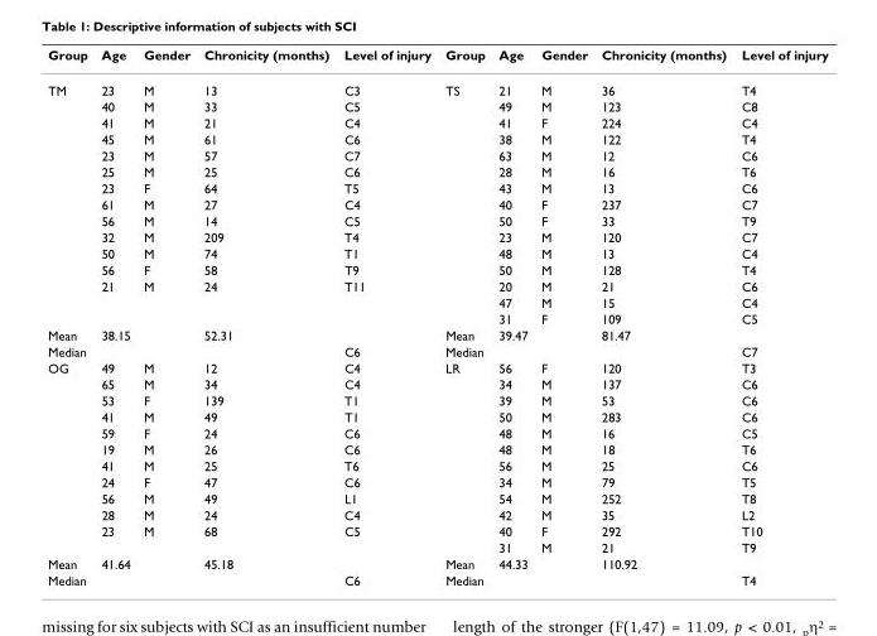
<table><thead><tr><td>Group</td><td>Age</td><td>Gender</td><td>Chronicity (months)</td><td>Level of injury</td><td>Group</td><td>Age</td><td>Gender</td><td>Chronicity (months)</td><td>Level of injury</td></tr></thead><tbody><tr><td rowspan="15">TM</td><td>23</td><td>M</td><td>13</td><td>C3</td><td>TS</td><td>21</td><td>M</td><td>36</td><td>T4</td></tr><tr><td>40</td><td>M</td><td>33</td><td>C5</td><td></td><td>49</td><td>M</td><td>123</td><td>C8</td></tr><tr><td>41</td><td>M</td><td>21</td><td>C4</td><td></td><td>41</td><td>F</td><td>224</td><td>C4</td></tr><tr><td>45</td><td>M</td><td>61</td><td>C6</td><td></td><td>38</td><td>M</td><td>122</td><td>T4</td></tr><tr><td>23</td><td>M</td><td>57</td><td>C7</td><td></td><td>63</td><td>M</td><td>12</td><td>C6</td></tr><tr><td>25</td><td>M</td><td>25</td><td>C6</td><td></td><td>28</td><td>M</td><td>16</td><td>T6</td></tr><tr><td>23</td><td>F</td><td>64</td><td>T5</td><td></td><td>43</td><td>M</td><td>13</td><td>C6</td></tr><tr><td>61</td><td>M</td><td>27</td><td>C4</td><td></td><td>40</td><td>F</td><td>237</td><td>C7</td></tr><tr><td>56</td><td>M</td><td>14</td><td>C5</td><td></td><td>50</td><td>F</td><td>33</td><td>T9</td></tr><tr><td>32</td><td>M</td><td>209</td><td>T4</td><td></td><td>23</td><td>M</td><td>120</td><td>C7</td></tr><tr><td>50</td><td>M</td><td>74</td><td>T1</td><td></td><td>48</td><td>M</td><td>13</td><td>C4</td></tr><tr><td>56</td><td>F</td><td>58</td><td>T9</td><td></td><td>50</td><td>M</td><td>128</td><td>T4</td></tr><tr><td>21</td><td>M</td><td>24</td><td>T11</td><td></td><td>20</td><td>M</td><td>21</td><td>C6</td></tr><tr><td></td><td></td><td></td><td></td><td></td><td>47</td><td>M</td><td>15</td><td>C4</td></tr><tr><td></td><td></td><td></td><td></td><td></td><td>31</td><td>F</td><td>109</td><td>C5</td></tr><tr><td>Mean</td><td>38.15</td><td></td><td>52.31</td><td></td><td>Mean</td><td>39.47</td><td></td><td>81.47</td><td></td></tr><tr><td>Median</td><td></td><td></td><td></td><td>C6</td><td>Median</td><td></td><td></td><td></td><td>C7</td></tr><tr><td rowspan="12">OG</td><td>49</td><td>M</td><td>12</td><td>C4</td><td>LR</td><td>56</td><td>F</td><td>120</td><td>T3</td></tr><tr><td>65</td><td>M</td><td>34</td><td>C4</td><td></td><td>34</td><td>M</td><td>137</td><td>C6</td></tr><tr><td>53</td><td>F</td><td>139</td><td>T1</td><td></td><td>39</td><td>M</td><td>53</td><td>C6</td></tr><tr><td>41</td><td>M</td><td>49</td><td>T1</td><td></td><td>50</td><td>M</td><td>283</td><td>C6</td></tr><tr><td>59</td><td>F</td><td>24</td><td>C6</td><td></td><td>48</td><td>M</td><td>16</td><td>C5</td></tr><tr><td>19</td><td>M</td><td>26</td><td>C6</td><td></td><td>48</td><td>M</td><td>18</td><td>T6</td></tr><tr><td>41</td><td>M</td><td>25</td><td>T6</td><td></td><td>56</td><td>M</td><td>25</td><td>C6</td></tr><tr><td>24</td><td>F</td><td>47</td><td>C6</td><td></td><td>34</td><td>M</td><td>79</td><td>T5</td></tr><tr><td>56</td><td>M</td><td>49</td><td>L1</td><td></td><td>54</td><td>M</td><td>252</td><td>T8</td></tr><tr><td>28</td><td>M</td><td>24</td><td>C4</td><td></td><td>42</td><td>M</td><td>35</td><td>L2</td></tr><tr><td>23</td><td>M</td><td>68</td><td>C5</td><td></td><td>40</td><td>F</td><td>292</td><td>T10</td></tr><tr><td></td><td></td><td></td><td></td><td></td><td>31</td><td>M</td><td>21</td><td>T9</td></tr><tr><td>Mean</td><td>41.64</td><td></td><td>45.18</td><td></td><td>Mean</td><td>44.33</td><td></td><td>110.92</td><td></td></tr><tr><td>Median</td><td></td><td></td><td></td><td>C6</td><td>Median</td><td></td><td></td><td></td><td>T4</td></tr></tbody></table>